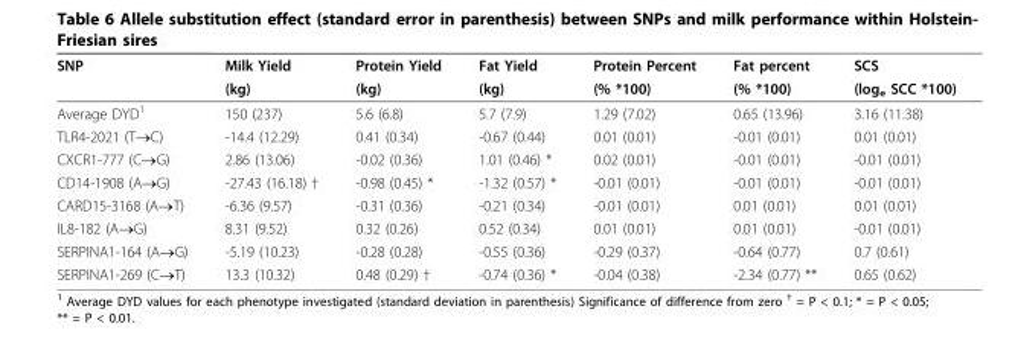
<table><thead><tr><td rowspan="2">SNP</td><td rowspan="2">Milk Yield (kg)</td><td rowspan="2">Protein Yield (kg)</td><td rowspan="2">Fat Yield (kg)</td><td rowspan="2">Protein Percent (% *100)</td><td rowspan="2">Fat percent (% *100)</td><td rowspan="2">SCS (log<sub>e</sub> SCC *100)</td></tr><tr></tr></thead><tbody><tr><td>Average DYD<sup>1</sup></td><td>150 (237)</td><td>5.6 (6.8)</td><td>5.7 (7.9)</td><td>1.29 (7.02)</td><td>0.65 (13.96)</td><td>3.16 (11.38)</td></tr><tr><td>TLR4-2021 (T→C)</td><td>-14.4 (12.29)</td><td>0.41 (0.34)</td><td>-0.67 (0.44)</td><td>0.01 (0.01)</td><td>-0.01 (0.01)</td><td>0.01 (0.01)</td></tr><tr><td>CXCR1-777 (C→G)</td><td>2.86 (13.06)</td><td>-0.02 (0.36)</td><td>1.01 (0.46) *</td><td>0.02 (0.01)</td><td>-0.01 (0.01)</td><td>-0.01 (0.01)</td></tr><tr><td>CD14-1908 (A→G)</td><td>-27.43 (16.18) †</td><td>-0.98 (0.45) *</td><td>-1.32 (0.57) *</td><td>-0.01 (0.01)</td><td>-0.01 (0.01)</td><td>-0.01 (0.01)</td></tr><tr><td>CARD15-3168 (A→T)</td><td>-6.36 (9.57)</td><td>-0.31 (0.36)</td><td>-0.21 (0.34)</td><td>-0.01 (0.01)</td><td>0.01 (0.01)</td><td>0.01 (0.01)</td></tr><tr><td>IL8-182 (A→G)</td><td>8.31 (9.52)</td><td>0.32 (0.26)</td><td>0.52 (0.34)</td><td>0.01 (0.01)</td><td>0.01 (0.01)</td><td>-0.01 (0.01)</td></tr><tr><td>SERPINA1-164 (A→G)</td><td>-5.19 (10.23)</td><td>-0.28 (0.28)</td><td>-0.55 (0.36)</td><td>-0.29 (0.37)</td><td>-0.64 (0.77)</td><td>0.7 (0.61)</td></tr><tr><td>SERPINA1-269 (C→T)</td><td>13.3 (10.32)</td><td>0.48 (0.29) †</td><td>-0.74 (0.36) *</td><td>-0.04 (0.38)</td><td>-2.34 (0.77) **</td><td>0.65 (0.62)</td></tr></tbody></table>